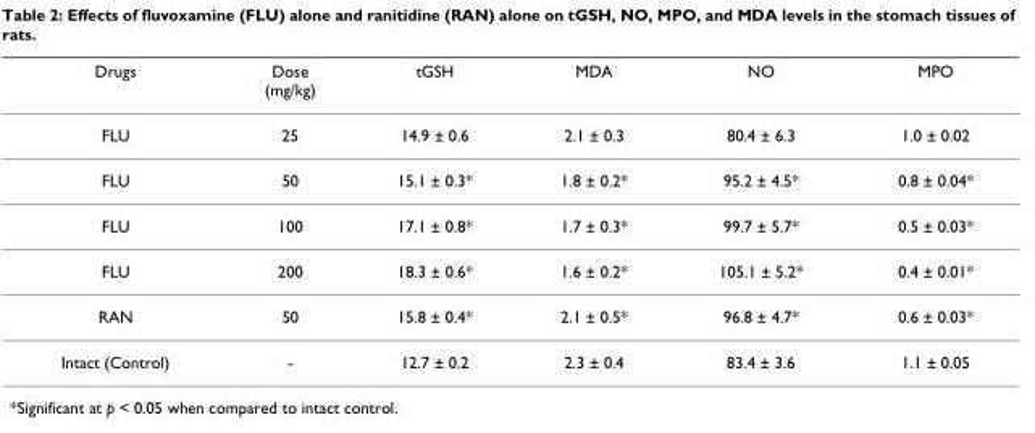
<table><thead><tr><td>Drugs</td><td>Dose (mg/kg)</td><td>tGSH</td><td>MDA</td><td>NO</td><td>MPO</td></tr></thead><tbody><tr><td>FLU</td><td>25</td><td>14.9 ± 0.6</td><td>2.1 ± 0.3</td><td>80.4 ± 6.3</td><td>1.0 ± 0.02</td></tr><tr><td>FLU</td><td>50</td><td>15.1 ± 0.3*</td><td>1.8 ± 0.2*</td><td>95.2 ± 4.5*</td><td>0.8 ± 0.04*</td></tr><tr><td>FLU</td><td>100</td><td>17.1 ± 0.8*</td><td>1.7 ± 0.3*</td><td>99.7 ± 5.7*</td><td>0.5 ± 0.03*</td></tr><tr><td>FLU</td><td>200</td><td>18.3 ± 0.6*</td><td>1.6 ± 0.2*</td><td>105.1 ± 5.2*</td><td>0.4 ± 0.01*</td></tr><tr><td>RAN</td><td>50</td><td>15.8 ± 0.4*</td><td>2.1 ± 0.5*</td><td>96.8 ± 4.7*</td><td>0.6 ± 0.03*</td></tr><tr><td>Intact (Control)</td><td>-</td><td>12.7 ± 0.2</td><td>2.3 ± 0.4</td><td>83.4 ± 3.6</td><td>1.1 ± 0.05</td></tr></tbody></table>